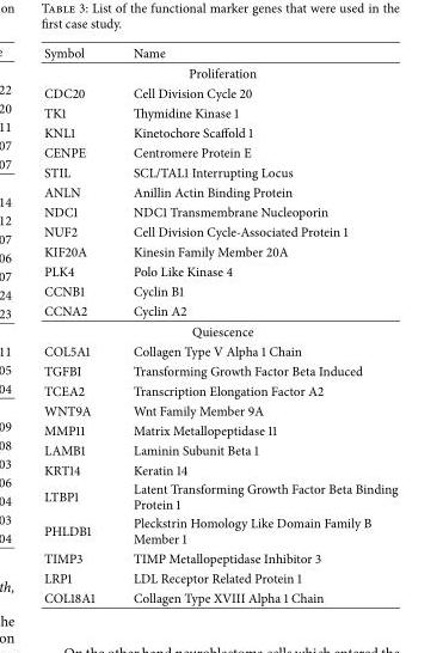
<table><thead><tr><td>Symbol</td><td>Name</td></tr></thead><tbody><tr><td colspan="2">Proliferation</td></tr><tr><td>CDC20</td><td>Cell Division Cycle 20</td></tr><tr><td>TK1</td><td>Thymidine Kinase 1</td></tr><tr><td>KNL1</td><td>Kinetochore Scaffold 1</td></tr><tr><td>CENPE</td><td>Centromere Protein E</td></tr><tr><td>STIL</td><td>SCL/TAL1 Interrupting Locus</td></tr><tr><td>ANLN</td><td>Anillin Actin Binding Protein</td></tr><tr><td>NDC1</td><td>NDC1 Transmembrane Nucleoporin</td></tr><tr><td>NUF2</td><td>Cell Division Cycle-Associated Protein 1</td></tr><tr><td>KIF20A</td><td>Kinesin Family Member 20A</td></tr><tr><td>PLK4</td><td>Polo Like Kinase 4</td></tr><tr><td>CCNB1</td><td>Cyclin B1</td></tr><tr><td>CCNA2</td><td>Cyclin A2</td></tr><tr><td colspan="2">Quiescence</td></tr><tr><td>COL5A1</td><td>Collagen Type V Alpha 1 Chain</td></tr><tr><td>TGFBI</td><td>Transforming Growth Factor Beta Induced</td></tr><tr><td>TCEA2</td><td>Transcription Elongation Factor A2</td></tr><tr><td>WNT9A</td><td>Wnt Family Member 9A</td></tr><tr><td>MMP11</td><td>Matrix Metallopeptidase 11</td></tr><tr><td>LAMB1</td><td>Laminin Subunit Beta 1</td></tr><tr><td>KRT14</td><td>Keratin 14</td></tr><tr><td>LTBP1</td><td>Latent Transforming Growth Factor Beta Binding Protein 1</td></tr><tr><td>PHLDB1</td><td>Pleckstrin Homology Like Domain Family B Member 1</td></tr><tr><td>TIMP3</td><td>TIMP Metallopeptidase Inhibitor 3</td></tr><tr><td>LRP1</td><td>LDL Receptor Related Protein 1</td></tr><tr><td>COL18A1</td><td>Collagen Type XVIII Alpha 1 Chain</td></tr></tbody></table>